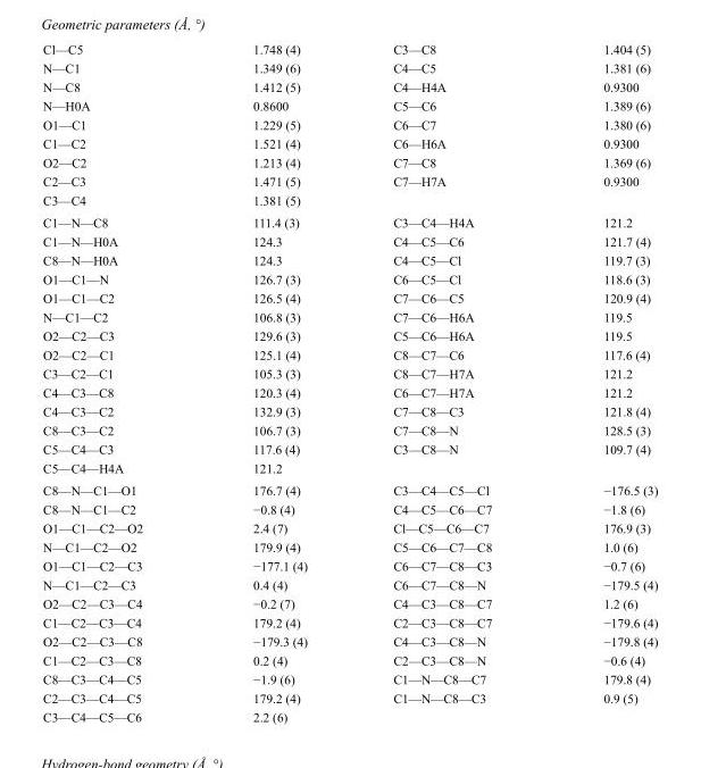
<table><tbody><tr><td>Cl—C5</td><td>1.748 (4)</td><td>C3—C8</td><td>1.404 (5)</td></tr><tr><td>N—C1</td><td>1.349 (6)</td><td>C4—C5</td><td>1.381 (6)</td></tr><tr><td>N—C8</td><td>1.412 (5)</td><td>C4—H4A</td><td>0.9300</td></tr><tr><td>N—H0A</td><td>0.8600</td><td>C5—C6</td><td>1.389 (6)</td></tr><tr><td>O1—C1</td><td>1.229 (5)</td><td>C6—C7</td><td>1.380 (6)</td></tr><tr><td>C1—C2</td><td>1.521 (4)</td><td>C6—H6A</td><td>0.9300</td></tr><tr><td>O2—C2</td><td>1.213 (4)</td><td>C7—C8</td><td>1.369 (6)</td></tr><tr><td>C2—C3</td><td>1.471 (5)</td><td>C7—H7A</td><td>0.9300</td></tr><tr><td>C3—C4</td><td>1.381 (5)</td><td></td><td></td></tr><tr><td>C1—N—C8</td><td>111.4 (3)</td><td>C3—C4—H4A</td><td>121.2</td></tr><tr><td>C1—N—H0A</td><td>124.3</td><td>C4—C5—C6</td><td>121.7 (4)</td></tr><tr><td>C8—N—H0A</td><td>124.3</td><td>C4—C5—Cl</td><td>119.7 (3)</td></tr><tr><td>O1—C1—N</td><td>126.7 (3)</td><td>C6—C5—Cl</td><td>118.6 (3)</td></tr><tr><td>O1—C1—C2</td><td>126.5 (4)</td><td>C7—C6—C5</td><td>120.9 (4)</td></tr><tr><td>N—C1—C2</td><td>106.8 (3)</td><td>C7—C6—H6A</td><td>119.5</td></tr><tr><td>O2—C2—C3</td><td>129.6 (3)</td><td>C5—C6—H6A</td><td>119.5</td></tr><tr><td>O2—C2—C1</td><td>125.1 (4)</td><td>C8—C7—C6</td><td>117.6 (4)</td></tr><tr><td>C3—C2—C1</td><td>105.3 (3)</td><td>C8—C7—H7A</td><td>121.2</td></tr><tr><td>C4—C3—C8</td><td>120.3 (4)</td><td>C6—C7—H7A</td><td>121.2</td></tr><tr><td>C4—C3—C2</td><td>132.9 (3)</td><td>C7—C8—C3</td><td>121.8 (4)</td></tr><tr><td>C8—C3—C2</td><td>106.7 (3)</td><td>C7—C8—N</td><td>128.5 (3)</td></tr><tr><td>C5—C4—C3</td><td>117.6 (4)</td><td>C3—C8—N</td><td>109.7 (4)</td></tr><tr><td>C5—C4—H4A</td><td>121.2</td><td></td><td></td></tr><tr><td>C8—N—C1—O1</td><td>176.7 (4)</td><td>C3—C4—C5—Cl</td><td>−176.5 (3)</td></tr><tr><td>C8—N—C1—C2</td><td>−0.8 (4)</td><td>C4—C5—C6—C7</td><td>−1.8 (6)</td></tr><tr><td>O1—C1—C2—O2</td><td>2.4 (7)</td><td>Cl—C5—C6—C7</td><td>176.9 (3)</td></tr><tr><td>N—C1—C2—O2</td><td>179.9 (4)</td><td>C5—C6—C7—C8</td><td>1.0 (6)</td></tr><tr><td>O1—C1—C2—C3</td><td>−177.1 (4)</td><td>C6—C7—C8—C3</td><td>−0.7 (6)</td></tr><tr><td>N—C1—C2—C3</td><td>0.4 (4)</td><td>C6—C7—C8—N</td><td>−179.5 (4)</td></tr><tr><td>O2—C2—C3—C4</td><td>−0.2 (7)</td><td>C4—C3—C8—C7</td><td>1.2 (6)</td></tr><tr><td>C1—C2—C3—C4</td><td>179.2 (4)</td><td>C2—C3—C8—C7</td><td>−179.6 (4)</td></tr><tr><td>O2—C2—C3—C8</td><td>−179.3 (4)</td><td>C4—C3—C8—N</td><td>−179.8 (4)</td></tr><tr><td>C1—C2—C3—C8</td><td>0.2 (4)</td><td>C2—C3—C8—N</td><td>−0.6 (4)</td></tr><tr><td>C8—C3—C4—C5</td><td>−1.9 (6)</td><td>C1—N—C8—C7</td><td>179.8 (4)</td></tr><tr><td>C2—C3—C4—C5</td><td>179.2 (4)</td><td>C1—N—C8—C3</td><td>0.9 (5)</td></tr><tr><td>C3—C4—C5—C6</td><td>2.2 (6)</td><td></td><td></td></tr></tbody></table>